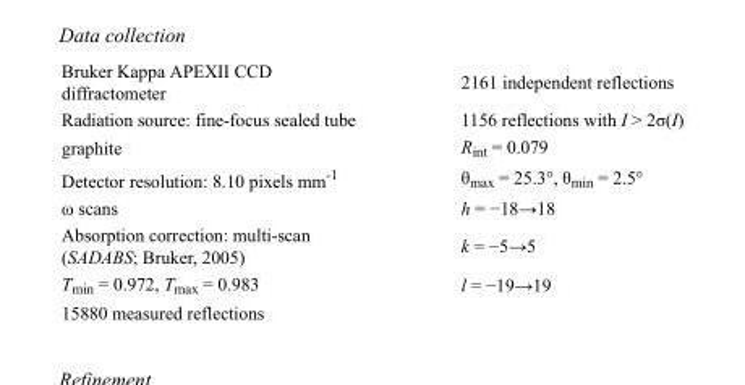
<table><tbody><tr><td>Bruker Kappa APEXII CCD diffractometer</td><td>2161 independent reflections</td></tr><tr><td>Radiation source: fine-focus sealed tube</td><td>1156 reflections with I &gt; 2σ(I)</td></tr><tr><td>graphite</td><td>R<sub>int</sub> = 0.079</td></tr><tr><td>Detector resolution: 8.10 pixels mm<sup>-1</sup></td><td>θ<sub>max</sub> = 25.3°, θ<sub>min</sub> = 2.5°</td></tr><tr><td>ω scans</td><td>h = −18→18</td></tr><tr><td>Absorption correction: multi-scan (SADABS; Bruker, 2005)</td><td>k = −5→5</td></tr><tr><td>T<sub>min</sub> = 0.972, T<sub>max</sub> = 0.983</td><td>l = −19→19</td></tr><tr><td>15880 measured reflections</td><td></td></tr></tbody></table>